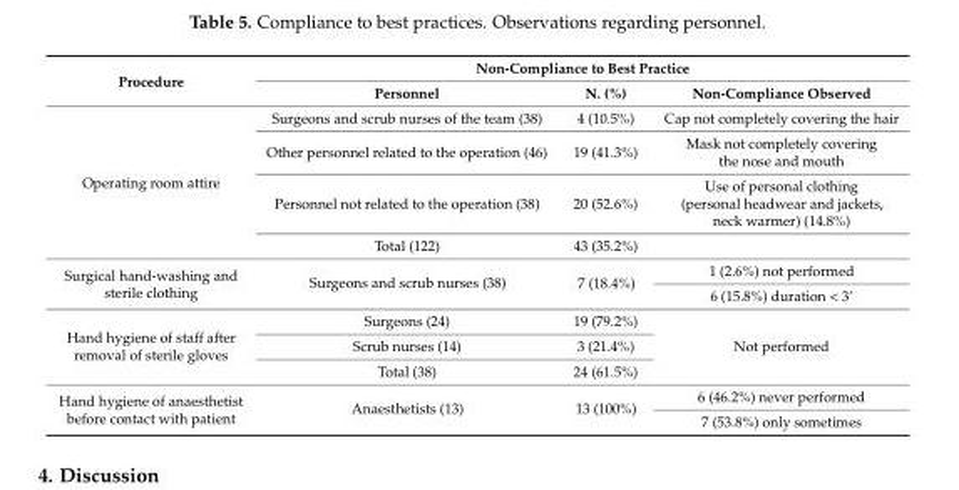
<table><thead><tr><td rowspan="2">Procedure</td><td colspan="3">Non-Compliance to Best Practice</td></tr><tr><td>Personnel</td><td>N. (%)</td><td>Non-Compliance Observed</td></tr></thead><tbody><tr><td rowspan="4">Operating room attire</td><td>Surgeons and scrub nurses of the team (38)</td><td>4 (10.5%)</td><td>Cap not completely covering the hair</td></tr><tr><td>Other personnel related to the operation (46)</td><td>19 (41.3%)</td><td>Mask not completely covering the nose and mouth</td></tr><tr><td>Personnel not related to the operation (38)</td><td>20 (52.6%)</td><td>Use of personal clothing (personal headwear and jackets, neck warmer) (14.8%)</td></tr><tr><td>Total (122)</td><td>43 (35.2%)</td><td></td></tr><tr><td rowspan="2">Surgical hand-washing and sterile clothing</td><td rowspan="2">Surgeons and scrub nurses (38)</td><td rowspan="2">7 (18.4%)</td><td>1 (2.6%) not performed</td></tr><tr><td>6 (15.8%) duration &lt; 3’</td></tr><tr><td rowspan="3">Hand hygiene of staff after removal of sterile gloves</td><td>Surgeons (24)</td><td>19 (79.2%)</td><td rowspan="3">Not performed</td></tr><tr><td>Scrub nurses (14)</td><td>3 (21.4%)</td></tr><tr><td>Total (38)</td><td>24 (61.5%)</td></tr><tr><td rowspan="2">Hand hygiene of anaesthetist before contact with patient</td><td rowspan="2">Anaesthetists (13)</td><td rowspan="2">13 (100%)</td><td>6 (46.2%) never performed</td></tr><tr><td>7 (53.8%) only sometimes</td></tr></tbody></table>